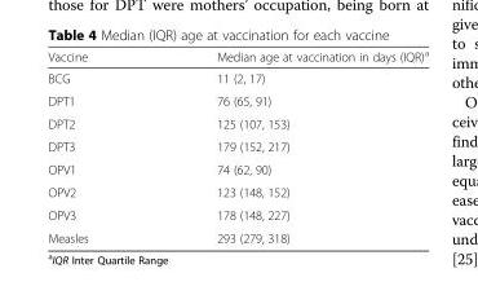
<table><thead><tr><td>Vaccine</td><td>Median age at vaccination in days (IQR)<sup>a</sup></td></tr></thead><tbody><tr><td>BCG</td><td>11 (2, 17)</td></tr><tr><td>DPT1</td><td>76 (65, 91)</td></tr><tr><td>DPT2</td><td>125 (107, 153)</td></tr><tr><td>DPT3</td><td>179 (152, 217)</td></tr><tr><td>OPV1</td><td>74 (62, 90)</td></tr><tr><td>OPV2</td><td>123 (148, 152)</td></tr><tr><td>OPV3</td><td>178 (148, 227)</td></tr><tr><td>Measles</td><td>293 (279, 318)</td></tr></tbody></table>